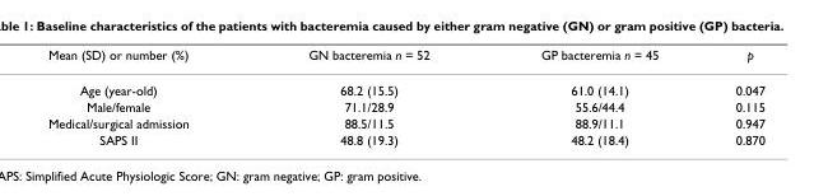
<table><thead><tr><td>Mean (SD) or number (%)</td><td>GN bacteremia n = 52</td><td>GP bacteremia n = 45</td><td>p</td></tr></thead><tbody><tr><td>Age (year-old)</td><td>68.2 (15.5)</td><td>61.0 (14.1)</td><td>0.047</td></tr><tr><td>Male/female</td><td>71.1/28.9</td><td>55.6/44.4</td><td>0.115</td></tr><tr><td>Medical/surgical admission</td><td>88.5/11.5</td><td>88.9/11.1</td><td>0.947</td></tr><tr><td>SAPS II</td><td>48.8 (19.3)</td><td>48.2 (18.4)</td><td>0.870</td></tr></tbody></table>